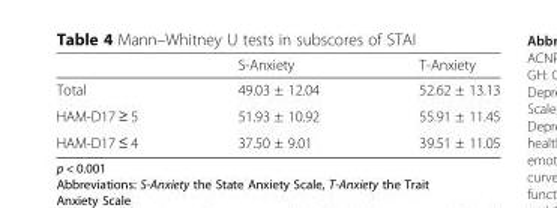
<table><thead><tr><td></td><td>S-Anxiety</td><td>T-Anxiety</td></tr></thead><tbody><tr><td>Total</td><td>49.03 ± 12.04</td><td>52.62 ± 13.13</td></tr><tr><td>HAM-D17 ≥ 5</td><td>51.93 ± 10.92</td><td>55.91 ± 11.45</td></tr><tr><td>HAM-D17 ≤ 4</td><td>37.50 ± 9.01</td><td>39.51 ± 11.05</td></tr></tbody></table>